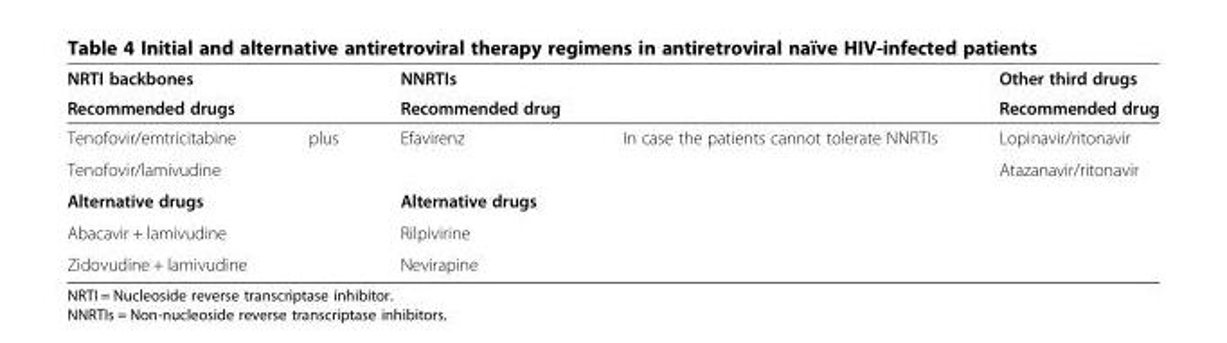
<table><thead><tr><td rowspan="2">NRTI backbones Recommended drugs</td><td rowspan="2"></td><td rowspan="2">NNRTIs Recommended drug</td><td rowspan="2"></td><td rowspan="2">Other third drugs Recommended drug</td></tr><tr></tr></thead><tbody><tr><td>Tenofovir/emtricitabine</td><td rowspan="5">plus</td><td rowspan="2">Efavirenz</td><td rowspan="5">In case the patients cannot tolerate NNRTIs</td><td>Lopinavir/ritonavir</td></tr><tr><td>Tenofovir/lamivudine</td><td>Atazanavir/ritonavir</td></tr><tr><td>Alternative drugs</td><td>Alternative drugs</td><td></td></tr><tr><td>Abacavir + lamivudine</td><td>Rilpivirine</td><td></td></tr><tr><td>Zidovudine + lamivudine</td><td>Nevirapine</td><td></td></tr></tbody></table>